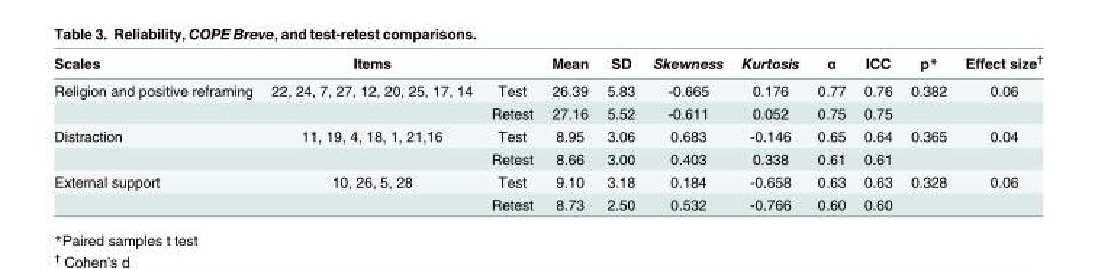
<table><thead><tr><td>Scales</td><td>Items</td><td></td><td>Mean</td><td>SD</td><td>Skewness</td><td>Kurtosis</td><td>α</td><td>ICC</td><td>p*</td><td>Effect size<sup>†</sup></td></tr></thead><tbody><tr><td rowspan="2">Religion and positive reframing</td><td>22, 24, 7, 27, 12, 20, 25, 17, 14</td><td>Test</td><td>26.39</td><td>5.83</td><td>-0.665</td><td>0.176</td><td>0.77</td><td>0.76</td><td>0.382</td><td>0.06</td></tr><tr><td></td><td>Retest</td><td>27.16</td><td>5.52</td><td>-0.611</td><td>0.052</td><td>0.75</td><td>0.75</td><td></td><td></td></tr><tr><td rowspan="2">Distraction</td><td>11, 19, 4, 18, 1, 21,16</td><td>Test</td><td>8.95</td><td>3.06</td><td>0.683</td><td>-0.146</td><td>0.65</td><td>0.64</td><td>0.365</td><td>0.04</td></tr><tr><td></td><td>Retest</td><td>8.66</td><td>3.00</td><td>0.403</td><td>0.338</td><td>0.61</td><td>0.61</td><td></td><td></td></tr><tr><td rowspan="2">External support</td><td>10, 26, 5, 28</td><td>Test</td><td>9.10</td><td>3.18</td><td>0.184</td><td>-0.658</td><td>0.63</td><td>0.63</td><td>0.328</td><td>0.06</td></tr><tr><td></td><td>Retest</td><td>8.73</td><td>2.50</td><td>0.532</td><td>-0.766</td><td>0.60</td><td>0.60</td><td></td><td></td></tr></tbody></table>